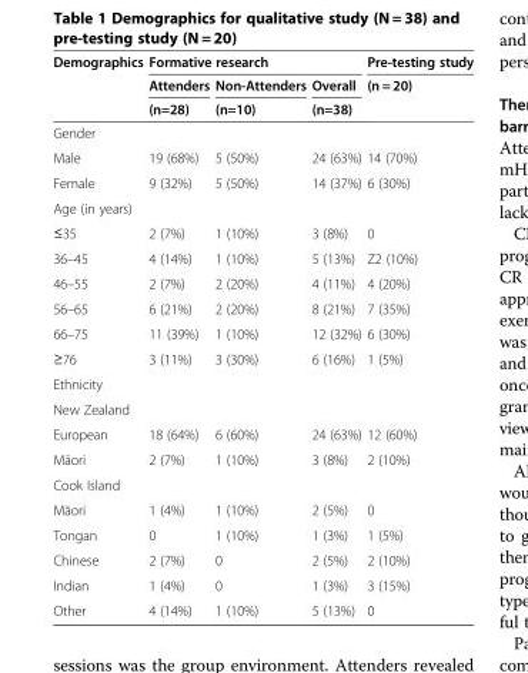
<table><thead><tr><td rowspan="3">Demographics</td><td colspan="3">Formative research</td><td rowspan="3">Pre-testing study (n = 20)</td></tr><tr><td rowspan="2">Attenders (n=28)</td><td rowspan="2">Non-Attenders (n=10)</td><td rowspan="2">Overall (n=38)</td></tr><tr></tr></thead><tbody><tr><td colspan="5">Gender</td></tr><tr><td>Male</td><td>19 (68%)</td><td>5 (50%)</td><td>24 (63%)</td><td>14 (70%)</td></tr><tr><td>Female</td><td>9 (32%)</td><td>5 (50%)</td><td>14 (37%)</td><td>6 (30%)</td></tr><tr><td colspan="5">Age (in years)</td></tr><tr><td>≤35</td><td>2 (7%)</td><td>1 (10%)</td><td>3 (8%)</td><td>0</td></tr><tr><td>36–45</td><td>4 (14%)</td><td>1 (10%)</td><td>5 (13%)</td><td>Z2 (10%)</td></tr><tr><td>46–55</td><td>2 (7%)</td><td>2 (20%)</td><td>4 (11%)</td><td>4 (20%)</td></tr><tr><td>56–65</td><td>6 (21%)</td><td>2 (20%)</td><td>8 (21%)</td><td>7 (35%)</td></tr><tr><td>66–75</td><td>11 (39%)</td><td>1 (10%)</td><td>12 (32%)</td><td>6 (30%)</td></tr><tr><td>≥76</td><td>3 (11%)</td><td>3 (30%)</td><td>6 (16%)</td><td>1 (5%)</td></tr><tr><td colspan="5">Ethnicity</td></tr><tr><td colspan="5">New Zealand</td></tr><tr><td>European</td><td>18 (64%)</td><td>6 (60%)</td><td>24 (63%)</td><td>12 (60%)</td></tr><tr><td>Māori</td><td>2 (7%)</td><td>1 (10%)</td><td>3 (8%)</td><td>2 (10%)</td></tr><tr><td colspan="5">Cook Island</td></tr><tr><td>Māori</td><td>1 (4%)</td><td>1 (10%)</td><td>2 (5%)</td><td>0</td></tr><tr><td>Tongan</td><td>0</td><td>1 (10%)</td><td>1 (3%)</td><td>1 (5%)</td></tr><tr><td>Chinese</td><td>2 (7%)</td><td>0</td><td>2 (5%)</td><td>2 (10%)</td></tr><tr><td>Indian</td><td>1 (4%)</td><td>0</td><td>1 (3%)</td><td>3 (15%)</td></tr><tr><td>Other</td><td>4 (14%)</td><td>1 (10%)</td><td>5 (13%)</td><td>0</td></tr></tbody></table>